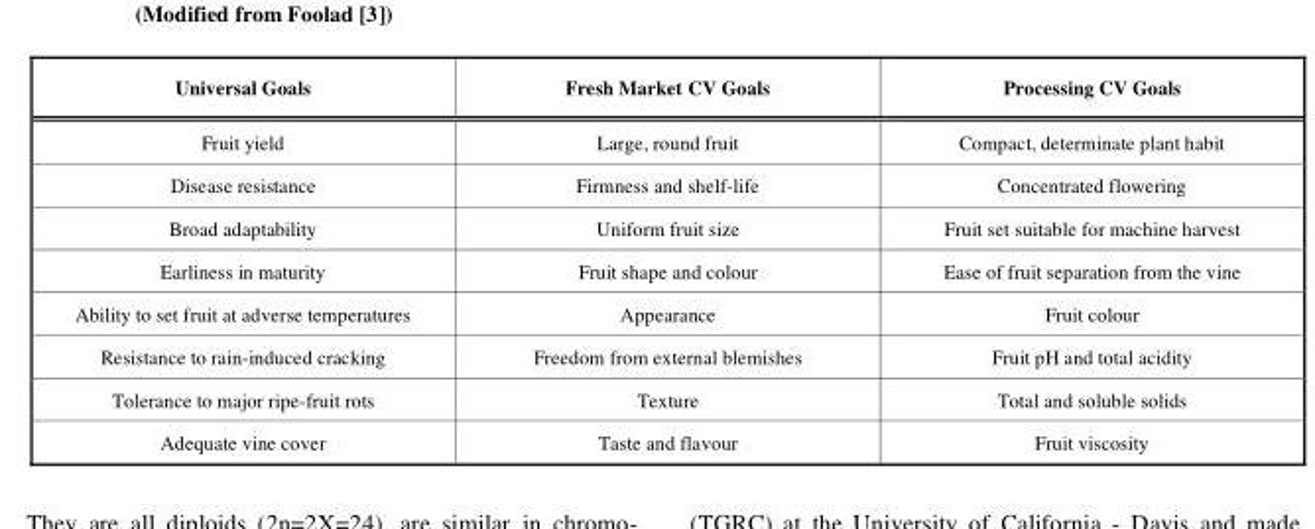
<table><thead><tr><td>Universal Goals</td><td>Fresh Market CV Goals</td><td>Processing CV Goals</td></tr></thead><tbody><tr><td>Fruit yield</td><td>Large, round fruit</td><td>Compact, determinate plant habit</td></tr><tr><td>Disease resistance</td><td>Firmness and shelf-life</td><td>Concentrated flowering</td></tr><tr><td>Broad adaptability</td><td>Uniform fruit size</td><td>Fruit set suitable for machine harvest</td></tr><tr><td>Earliness in maturity</td><td>Fruit shape and colour</td><td>Ease of fruit separation from the vine</td></tr><tr><td>Ability to set fruit at adverse temperatures</td><td>Appearance</td><td>Fruit colour</td></tr><tr><td>Resistance to rain-induced cracking</td><td>Freedom from external blemishes</td><td>Fruit pH and total acidity</td></tr><tr><td>Tolerance to major ripe-fruit rots</td><td>Texture</td><td>Total and soluble solids</td></tr><tr><td>Adequate vine cover</td><td>Taste and flavour</td><td>Fruit viscosity</td></tr></tbody></table>